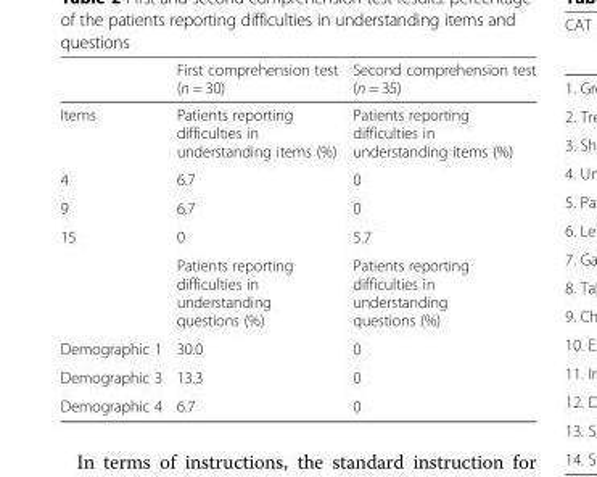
<table><thead><tr><td></td><td>First comprehension test (n = 30)</td><td>Second comprehension test (n = 35)</td></tr></thead><tbody><tr><td>Items</td><td>Patients reporting difficulties in understanding items (%)</td><td>Patients reporting difficulties in understanding items (%)</td></tr><tr><td>4</td><td>6.7</td><td>0</td></tr><tr><td>9</td><td>6.7</td><td>0</td></tr><tr><td rowspan="2">15</td><td>0</td><td>5.7</td></tr><tr><td>Patients reporting difficulties in understanding questions (%)</td><td>Patients reporting difficulties in understanding questions (%)</td></tr><tr><td>Demographic 1</td><td>30.0</td><td>0</td></tr><tr><td>Demographic 3</td><td>13.3</td><td>0</td></tr><tr><td>Demographic 4</td><td>6.7</td><td>0</td></tr></tbody></table>